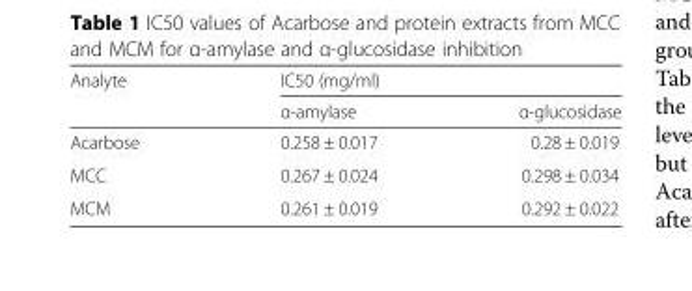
<table><thead><tr><td rowspan="2">Analyte</td><td colspan="2">IC50 (mg/ml)</td></tr><tr><td>α-amylase</td><td>α-glucosidase</td></tr></thead><tbody><tr><td>Acarbose</td><td>0.258 ± 0.017</td><td>0.28 ± 0.019</td></tr><tr><td>MCC</td><td>0.267 ± 0.024</td><td>0.298 ± 0.034</td></tr><tr><td>MCM</td><td>0.261 ± 0.019</td><td>0.292 ± 0.022</td></tr></tbody></table>